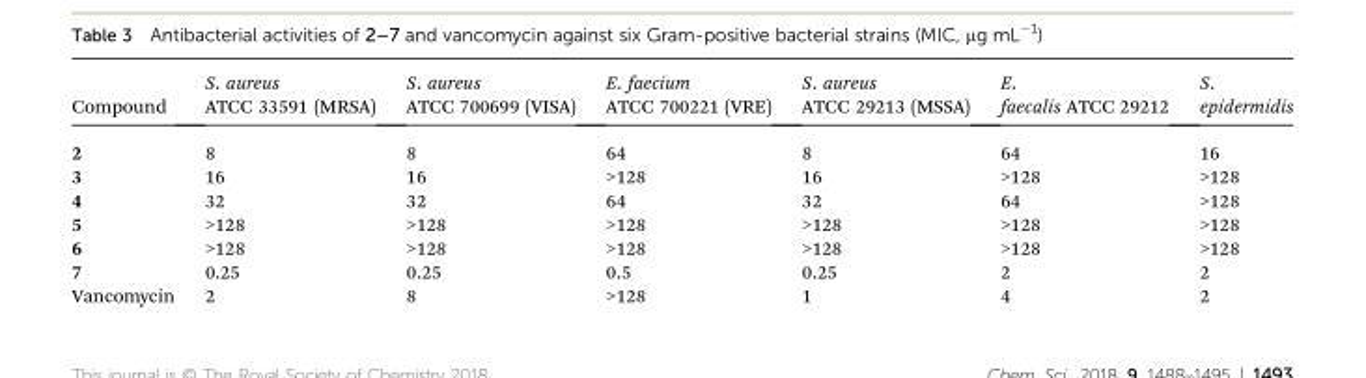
<table><thead><tr><td>Compound</td><td>S. aureus ATCC 33591 (MRSA)</td><td>S. aureus ATCC 700699 (VISA)</td><td>E. faecium ATCC 700221 (VRE)</td><td>S. aureus ATCC 29213 (MSSA)</td><td>E. faecalis ATCC 29212</td><td>S. epidermidis</td></tr></thead><tbody><tr><td>2</td><td>8</td><td>8</td><td>64</td><td>8</td><td>64</td><td>16</td></tr><tr><td>3</td><td>16</td><td>16</td><td>&gt;128</td><td>16</td><td>&gt;128</td><td>&gt;128</td></tr><tr><td>4</td><td>32</td><td>32</td><td>64</td><td>32</td><td>64</td><td>&gt;128</td></tr><tr><td>5</td><td>&gt;128</td><td>&gt;128</td><td>&gt;128</td><td>&gt;128</td><td>&gt;128</td><td>&gt;128</td></tr><tr><td>6</td><td>&gt;128</td><td>&gt;128</td><td>&gt;128</td><td>&gt;128</td><td>&gt;128</td><td>&gt;128</td></tr><tr><td>7</td><td>0.25</td><td>0.25</td><td>0.5</td><td>0.25</td><td>2</td><td>2</td></tr><tr><td>Vancomycin</td><td>2</td><td>8</td><td>&gt;128</td><td>1</td><td>4</td><td>2</td></tr></tbody></table>